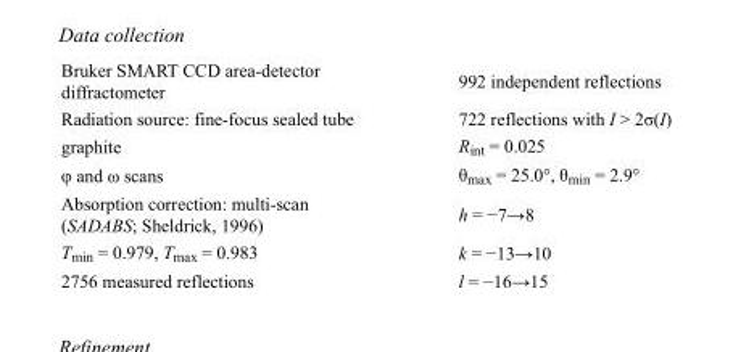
<table><tbody><tr><td>Bruker SMART CCD area-detector diffractometer</td><td>992 independent reflections</td></tr><tr><td>Radiation source: fine-focus sealed tube</td><td>722 reflections with I &gt; 2σ(I)</td></tr><tr><td>graphite</td><td>R<sub>int</sub> = 0.025</td></tr><tr><td>φ and ω scans</td><td>θ<sub>max</sub> = 25.0°, θ<sub>min</sub> = 2.9°</td></tr><tr><td>Absorption correction: multi-scan (SADABS; Sheldrick, 1996)</td><td>h = −7→8</td></tr><tr><td>T<sub>min</sub> = 0.979, T<sub>max</sub> = 0.983</td><td>k = −13→10</td></tr><tr><td>2756 measured reflections</td><td>l = −16→15</td></tr></tbody></table>